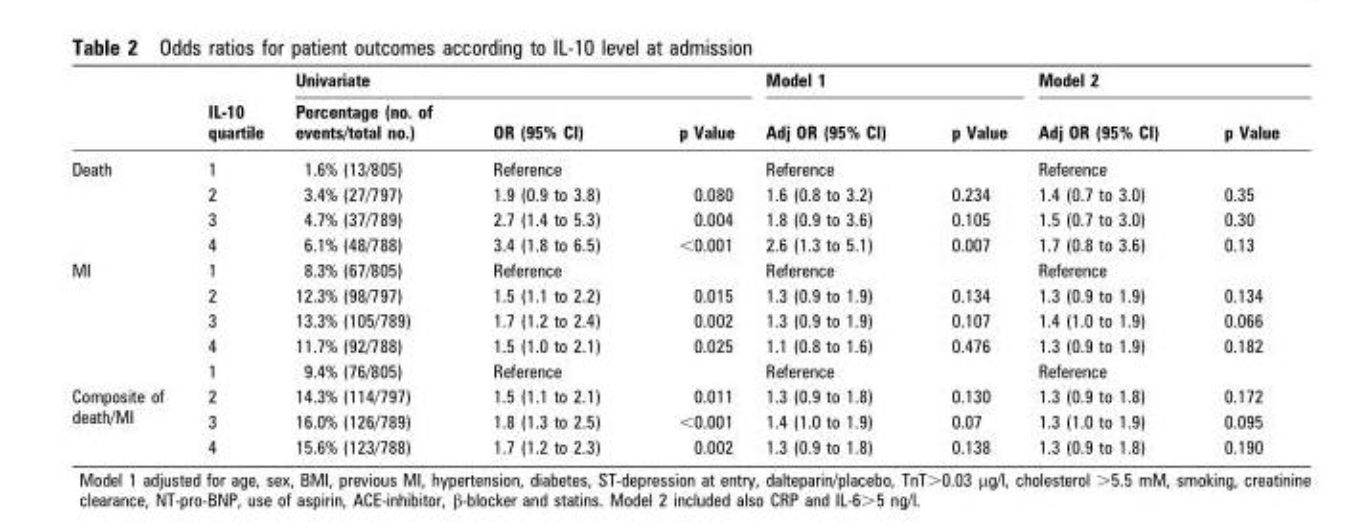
<table><thead><tr><td rowspan="2"></td><td rowspan="2">IL-10 quartile</td><td colspan="3">Univariate</td><td colspan="2">Model 1</td><td colspan="2">Model 2</td></tr><tr><td>Percentage (no. of events/total no.)</td><td>OR (95% CI)</td><td>p Value</td><td>Adj OR (95% CI)</td><td>p Value</td><td>Adj OR (95% CI)</td><td>p Value</td></tr></thead><tbody><tr><td rowspan="4">Death</td><td>1</td><td>1.6% (13/805)</td><td>Reference</td><td></td><td>Reference</td><td></td><td>Reference</td><td></td></tr><tr><td>2</td><td>3.4% (27/797)</td><td>1.9 (0.9 to 3.8)</td><td>0.080</td><td>1.6 (0.8 to 3.2)</td><td>0.234</td><td>1.4 (0.7 to 3.0)</td><td>0.35</td></tr><tr><td>3</td><td>4.7% (37/789)</td><td>2.7 (1.4 to 5.3)</td><td>0.004</td><td>1.8 (0.9 to 3.6)</td><td>0.105</td><td>1.5 (0.7 to 3.0)</td><td>0.30</td></tr><tr><td>4</td><td>6.1% (48/788)</td><td>3.4 (1.8 to 6.5)</td><td>&lt;0.001</td><td>2.6 (1.3 to 5.1)</td><td>0.007</td><td>1.7 (0.8 to 3.6)</td><td>0.13</td></tr><tr><td rowspan="5">MI</td><td>1</td><td>8.3% (67/805)</td><td>Reference</td><td></td><td>Reference</td><td></td><td>Reference</td><td></td></tr><tr><td>2</td><td>12.3% (98/797)</td><td>1.5 (1.1 to 2.2)</td><td>0.015</td><td>1.3 (0.9 to 1.9)</td><td>0.134</td><td>1.3 (0.9 to 1.9)</td><td>0.134</td></tr><tr><td>3</td><td>13.3% (105/789)</td><td>1.7 (1.2 to 2.4)</td><td>0.002</td><td>1.3 (0.9 to 1.9)</td><td>0.107</td><td>1.4 (1.0 to 1.9)</td><td>0.066</td></tr><tr><td>4</td><td>11.7% (92/788)</td><td>1.5 (1.0 to 2.1)</td><td>0.025</td><td>1.1 (0.8 to 1.6)</td><td>0.476</td><td>1.3 (0.9 to 1.9)</td><td>0.182</td></tr><tr><td>1</td><td>9.4% (76/805)</td><td>Reference</td><td></td><td>Reference</td><td></td><td>Reference</td><td></td></tr><tr><td rowspan="3">Composite of death/MI</td><td>2</td><td>14.3% (114/797)</td><td>1.5 (1.1 to 2.1)</td><td>0.011</td><td>1.3 (0.9 to 1.8)</td><td>0.130</td><td>1.3 (0.9 to 1.8)</td><td>0.172</td></tr><tr><td>3</td><td>16.0% (126/789)</td><td>1.8 (1.3 to 2.5)</td><td>&lt;0.001</td><td>1.4 (1.0 to 1.9)</td><td>0.07</td><td>1.3 (1.0 to 1.9)</td><td>0.095</td></tr><tr><td>4</td><td>15.6% (123/788)</td><td>1.7 (1.2 to 2.3)</td><td>0.002</td><td>1.3 (0.9 to 1.8)</td><td>0.138</td><td>1.3 (0.9 to 1.8)</td><td>0.190</td></tr></tbody></table>